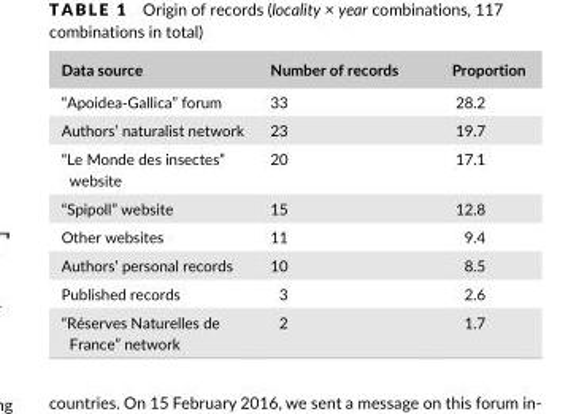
<table><thead><tr><td>Data source</td><td>Number of records</td><td>Proportion</td></tr></thead><tbody><tr><td>“Apoidea- Gallica” forum</td><td>33</td><td>28.2</td></tr><tr><td>Authors’ naturalist network</td><td>23</td><td>19.7</td></tr><tr><td>“Le Monde des insectes” website</td><td>20</td><td>17.1</td></tr><tr><td>“Spipoll” website</td><td>15</td><td>12.8</td></tr><tr><td>Other websites</td><td>11</td><td>9.4</td></tr><tr><td>Authors’ personal records</td><td>10</td><td>8.5</td></tr><tr><td>Published records</td><td>3</td><td>2.6</td></tr><tr><td>“Réserves Naturelles de France” network</td><td>2</td><td>1.7</td></tr></tbody></table>